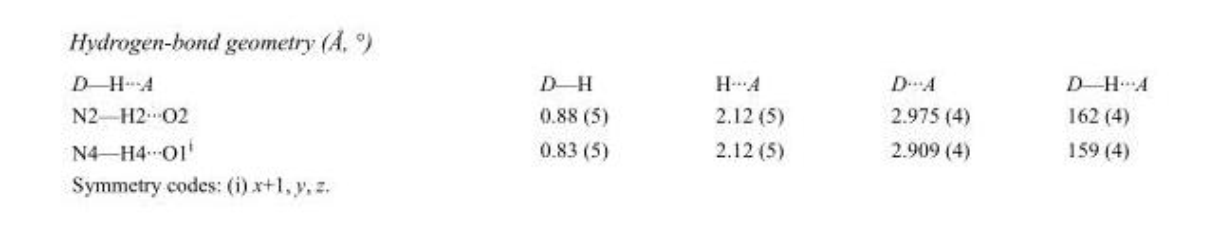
<table><tbody><tr><td>D—H···A</td><td>D—H</td><td>H···A</td><td>D···A</td><td>D—H···A</td></tr><tr><td>N2—H2···O2</td><td>0.88 (5)</td><td>2.12 (5)</td><td>2.975 (4)</td><td>162 (4)</td></tr><tr><td>N4—H4···O1<sup>i</sup></td><td>0.83 (5)</td><td>2.12 (5)</td><td>2.909 (4)</td><td>159 (4)</td></tr></tbody></table>